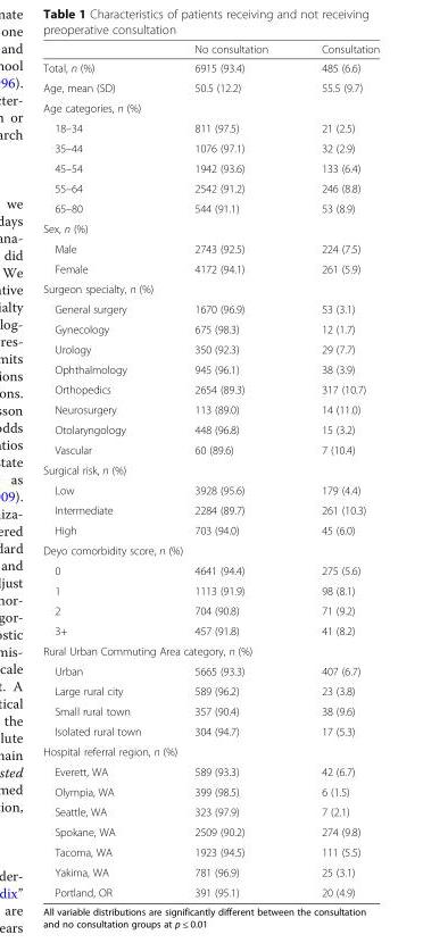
<table><thead><tr><td></td><td>No consultation</td><td>Consultation</td></tr></thead><tbody><tr><td>Total, n (%)</td><td>6915 (93.4)</td><td>485 (6.6)</td></tr><tr><td>Age, mean (SD)</td><td>50.5 (12.2)</td><td>55.5 (9.7)</td></tr><tr><td colspan="3">Age categories, n (%)</td></tr><tr><td>18–34</td><td>811 (97.5)</td><td>21 (2.5)</td></tr><tr><td>35–44</td><td>1076 (97.1)</td><td>32 (2.9)</td></tr><tr><td>45–54</td><td>1942 (93.6)</td><td>133 (6.4)</td></tr><tr><td>55–64</td><td>2542 (91.2)</td><td>246 (8.8)</td></tr><tr><td>65–80</td><td>544 (91.1)</td><td>53 (8.9)</td></tr><tr><td colspan="3">Sex, n (%)</td></tr><tr><td>Male</td><td>2743 (92.5)</td><td>224 (7.5)</td></tr><tr><td>Female</td><td>4172 (94.1)</td><td>261 (5.9)</td></tr><tr><td colspan="3">Surgeon specialty, n (%)</td></tr><tr><td>General surgery</td><td>1670 (96.9)</td><td>53 (3.1)</td></tr><tr><td>Gynecology</td><td>675 (98.3)</td><td>12 (1.7)</td></tr><tr><td>Urology</td><td>350 (92.3)</td><td>29 (7.7)</td></tr><tr><td>Ophthalmology</td><td>945 (96.1)</td><td>38 (3.9)</td></tr><tr><td>Orthopedics</td><td>2654 (89.3)</td><td>317 (10.7)</td></tr><tr><td>Neurosurgery</td><td>113 (89.0)</td><td>14 (11.0)</td></tr><tr><td>Otolaryngology</td><td>448 (96.8)</td><td>15 (3.2)</td></tr><tr><td>Vascular</td><td>60 (89.6)</td><td>7 (10.4)</td></tr><tr><td colspan="3">Surgical risk, n (%)</td></tr><tr><td>Low</td><td>3928 (95.6)</td><td>179 (4.4)</td></tr><tr><td>Intermediate</td><td>2284 (89.7)</td><td>261 (10.3)</td></tr><tr><td>High</td><td>703 (94.0)</td><td>45 (6.0)</td></tr><tr><td colspan="3">Deyo comorbidity score, n (%)</td></tr><tr><td>0</td><td>4641 (94.4)</td><td>275 (5.6)</td></tr><tr><td>1</td><td>1113 (91.9)</td><td>98 (8.1)</td></tr><tr><td>2</td><td>704 (90.8)</td><td>71 (9.2)</td></tr><tr><td>3+</td><td>457 (91.8)</td><td>41 (8.2)</td></tr><tr><td colspan="3">Rural Urban Commuting Area category, n (%)</td></tr><tr><td>Urban</td><td>5665 (93.3)</td><td>407 (6.7)</td></tr><tr><td>Large rural city</td><td>589 (96.2)</td><td>23 (3.8)</td></tr><tr><td>Small rural town</td><td>357 (90.4)</td><td>38 (9.6)</td></tr><tr><td>Isolated rural town</td><td>304 (94.7)</td><td>17 (5.3)</td></tr><tr><td colspan="3">Hospital referral region, n (%)</td></tr><tr><td>Everett, WA</td><td>589 (93.3)</td><td>42 (6.7)</td></tr><tr><td>Olympia, WA</td><td>399 (98.5)</td><td>6 (1.5)</td></tr><tr><td>Seattle, WA</td><td>323 (97.9)</td><td>7 (2.1)</td></tr><tr><td>Spokane, WA</td><td>2509 (90.2)</td><td>274 (9.8)</td></tr><tr><td>Tacoma, WA</td><td>1923 (94.5)</td><td>111 (5.5)</td></tr><tr><td>Yakima, WA</td><td>781 (96.9)</td><td>25 (3.1)</td></tr><tr><td>Portland, OR</td><td>391 (95.1)</td><td>20 (4.9)</td></tr></tbody></table>